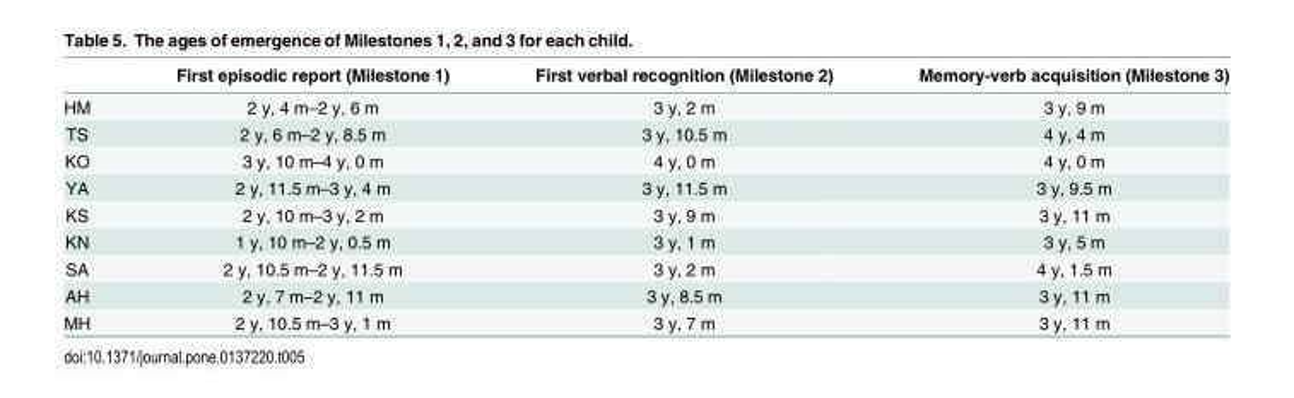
<table><thead><tr><td></td><td>First episodic report (Milestone 1)</td><td>First verbal recognition (Milestone 2)</td><td>Memory-verb acquisition (Milestone 3)</td></tr></thead><tbody><tr><td>HM</td><td>2 y, 4 m–2 y, 6 m</td><td>3 y, 2 m</td><td>3 y, 9 m</td></tr><tr><td>TS</td><td>2 y, 6 m–2 y, 8.5 m</td><td>3 y, 10.5 m</td><td>4 y, 4 m</td></tr><tr><td>KO</td><td>3 y, 10 m–4 y, 0 m</td><td>4 y, 0 m</td><td>4 y, 0 m</td></tr><tr><td>YA</td><td>2 y, 11.5 m–3 y, 4 m</td><td>3 y, 11.5 m</td><td>3 y, 9.5 m</td></tr><tr><td>KS</td><td>2 y, 10 m–3 y, 2 m</td><td>3 y, 9 m</td><td>3 y, 11 m</td></tr><tr><td>KN</td><td>1 y, 10 m–2 y, 0.5 m</td><td>3 y, 1 m</td><td>3 y, 5 m</td></tr><tr><td>SA</td><td>2 y, 10.5 m–2 y, 11.5 m</td><td>3 y, 2 m</td><td>4 y, 1.5 m</td></tr><tr><td>AH</td><td>2 y, 7 m–2 y, 11 m</td><td>3 y, 8.5 m</td><td>3 y, 11 m</td></tr><tr><td>MH</td><td>2 y, 10.5 m–3 y, 1 m</td><td>3 y, 7 m</td><td>3 y, 11 m</td></tr></tbody></table>